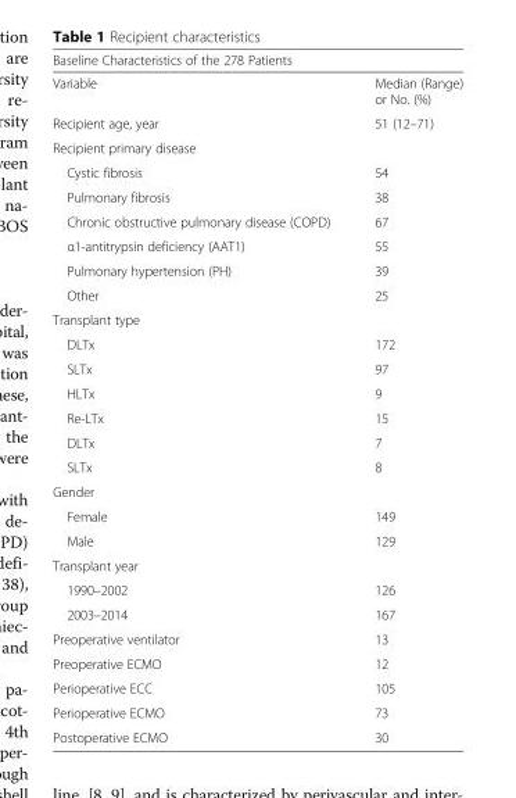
<table><thead><tr><td colspan="2">Baseline Characteristics of the 278 Patients</td></tr><tr><td>Variable</td><td>Median (Range) or No. (%)</td></tr></thead><tbody><tr><td>Recipient age, year</td><td>51 (12–71)</td></tr><tr><td colspan="2">Recipient primary disease</td></tr><tr><td>Cystic fibrosis</td><td>54</td></tr><tr><td>Pulmonary fibrosis</td><td>38</td></tr><tr><td>Chronic obstructive pulmonary disease (COPD)</td><td>67</td></tr><tr><td>α1-antitrypsin deficiency (AAT1)</td><td>55</td></tr><tr><td>Pulmonary hypertension (PH)</td><td>39</td></tr><tr><td>Other</td><td>25</td></tr><tr><td colspan="2">Transplant type</td></tr><tr><td>DLTx</td><td>172</td></tr><tr><td>SLTx</td><td>97</td></tr><tr><td>HLTx</td><td>9</td></tr><tr><td>Re-LTx</td><td>15</td></tr><tr><td>DLTx</td><td>7</td></tr><tr><td>SLTx</td><td>8</td></tr><tr><td colspan="2">Gender</td></tr><tr><td>Female</td><td>149</td></tr><tr><td>Male</td><td>129</td></tr><tr><td colspan="2">Transplant year</td></tr><tr><td>1990–2002</td><td>126</td></tr><tr><td>2003–2014</td><td>167</td></tr><tr><td>Preoperative ventilator</td><td>13</td></tr><tr><td>Preoperative ECMO</td><td>12</td></tr><tr><td>Perioperative ECC</td><td>105</td></tr><tr><td>Perioperative ECMO</td><td>73</td></tr><tr><td>Postoperative ECMO</td><td>30</td></tr></tbody></table>